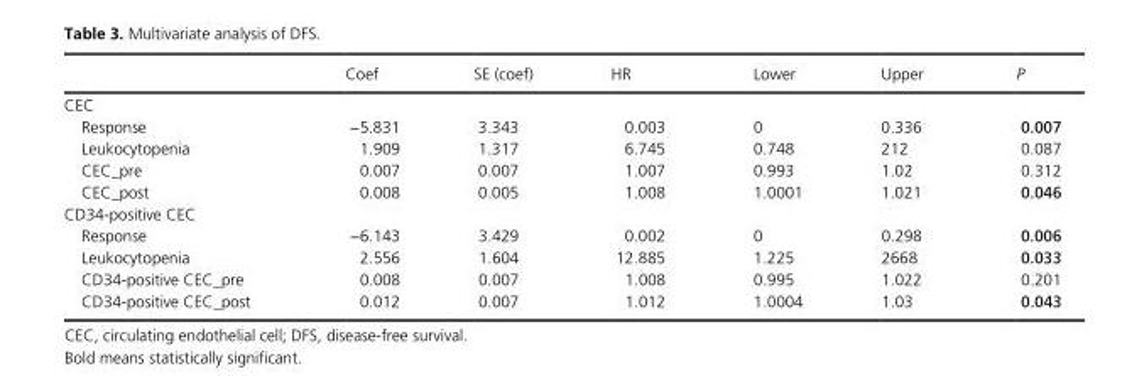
<table><thead><tr><td></td><td>Coef</td><td>SE (coef)</td><td>HR</td><td>Lower</td><td>Upper</td><td>P</td></tr></thead><tbody><tr><td colspan="7">CEC</td></tr><tr><td>Response</td><td>−5.831</td><td>3.343</td><td>0.003</td><td>0</td><td>0.336</td><td>0.007</td></tr><tr><td>Leukocytopenia</td><td>1.909</td><td>1.317</td><td>6.745</td><td>0.748</td><td>212</td><td>0.087</td></tr><tr><td>CEC_pre</td><td>0.007</td><td>0.007</td><td>1.007</td><td>0.993</td><td>1.02</td><td>0.312</td></tr><tr><td>CEC_post</td><td>0.008</td><td>0.005</td><td>1.008</td><td>1.0001</td><td>1.021</td><td>0.046</td></tr><tr><td colspan="7">CD34- positive CEC</td></tr><tr><td>Response</td><td>−6.143</td><td>3.429</td><td>0.002</td><td>0</td><td>0.298</td><td>0.006</td></tr><tr><td>Leukocytopenia</td><td>2.556</td><td>1.604</td><td>12.885</td><td>1.225</td><td>2668</td><td>0.033</td></tr><tr><td>CD34- positive CEC_pre</td><td>0.008</td><td>0.007</td><td>1.008</td><td>0.995</td><td>1.022</td><td>0.201</td></tr><tr><td>CD34- positive CEC_post</td><td>0.012</td><td>0.007</td><td>1.012</td><td>1.0004</td><td>1.03</td><td>0.043</td></tr></tbody></table>